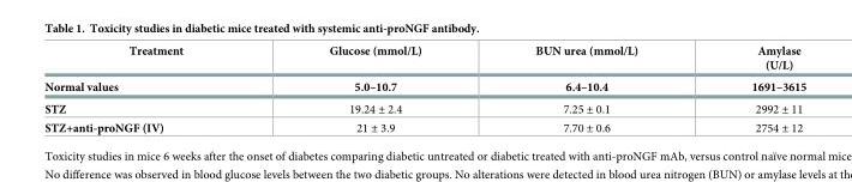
<table><thead><tr><td rowspan="2">Treatment Normal values</td><td rowspan="2">Glucose (mmol/L) 5.0–10.7</td><td rowspan="2">BUN urea (mmol/L) 6.4–10.4</td><td rowspan="2">Amylase (U/L) 1691–3615</td></tr><tr></tr></thead><tbody><tr><td>STZ</td><td>19.24 ± 2.4</td><td>7.25 ± 0.1</td><td>2992 ± 11</td></tr><tr><td>STZ+anti-proNGF (IV)</td><td>21 ± 3.9</td><td>7.70 ± 0.6</td><td>2754 ± 12</td></tr></tbody></table>